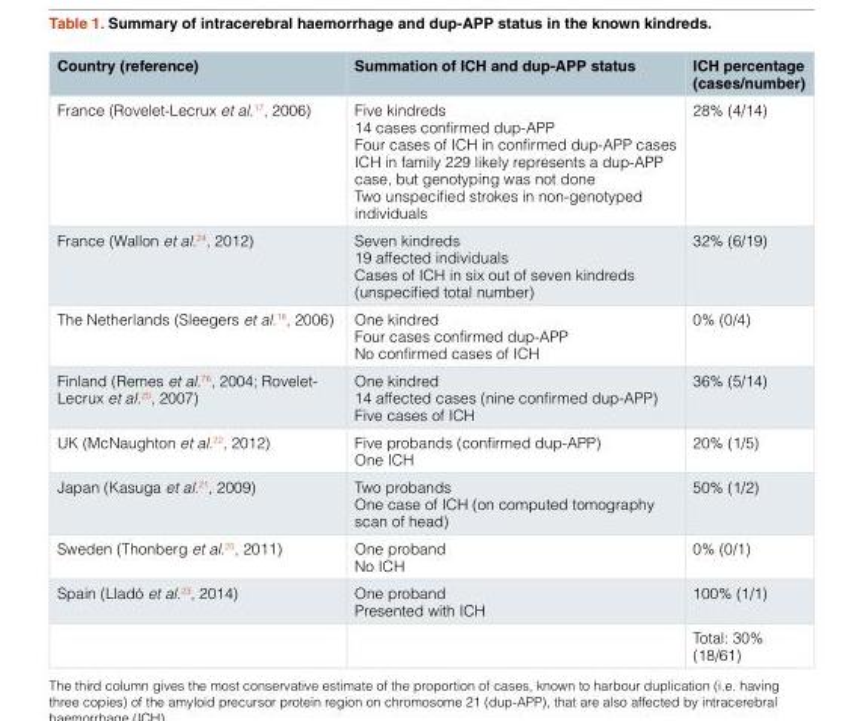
<table><thead><tr><td>Country (reference)</td><td>Summation of ICH and dup-APP status</td><td>ICH percentage (cases/number)</td></tr></thead><tbody><tr><td>France (Rovelet-Lecrux et al.<sup>17</sup>, 2006)</td><td>Five kindreds 14 cases confirmed dup-APP Four cases of ICH in confirmed dup-APP cases ICH in family 229 likely represents a dup-APP case, but genotyping was not done Two unspecified strokes in non-genotyped individuals</td><td>28% (4/14)</td></tr><tr><td>France (Wallon et al.<sup>24</sup>, 2012)</td><td>Seven kindreds 19 affected individuals Cases of ICH in six out of seven kindreds (unspecified total number)</td><td>32% (6/19)</td></tr><tr><td>The Netherlands (Sleegers et al.<sup>18</sup>, 2006)</td><td>One kindred Four cases confirmed dup-APP No confirmed cases of ICH</td><td>0% (0/4)</td></tr><tr><td>Finland (Remes et al.<sup>76</sup>, 2004; Rovelet- Lecrux et al.<sup>20</sup>, 2007)</td><td>One kindred 14 affected cases (nine confirmed dup-APP) Five cases of ICH</td><td>36% (5/14)</td></tr><tr><td>UK (McNaughton et al.<sup>22</sup>, 2012)</td><td>Five probands (confirmed dup-APP) One ICH</td><td>20% (1/5)</td></tr><tr><td>Japan (Kasuga et al.<sup>21</sup>, 2009)</td><td>Two probands One case of ICH (on computed tomography scan of head)</td><td>50% (1/2)</td></tr><tr><td>Sweden (Thonberg et al.<sup>25</sup>, 2011)</td><td>One proband No ICH</td><td>0% (0/1)</td></tr><tr><td rowspan="2">Spain (Lladó et al.<sup>23</sup>, 2014)</td><td>One proband Presented with ICH</td><td>100% (1/1)</td></tr><tr><td></td><td>Total: 30% (18/61)</td></tr></tbody></table>